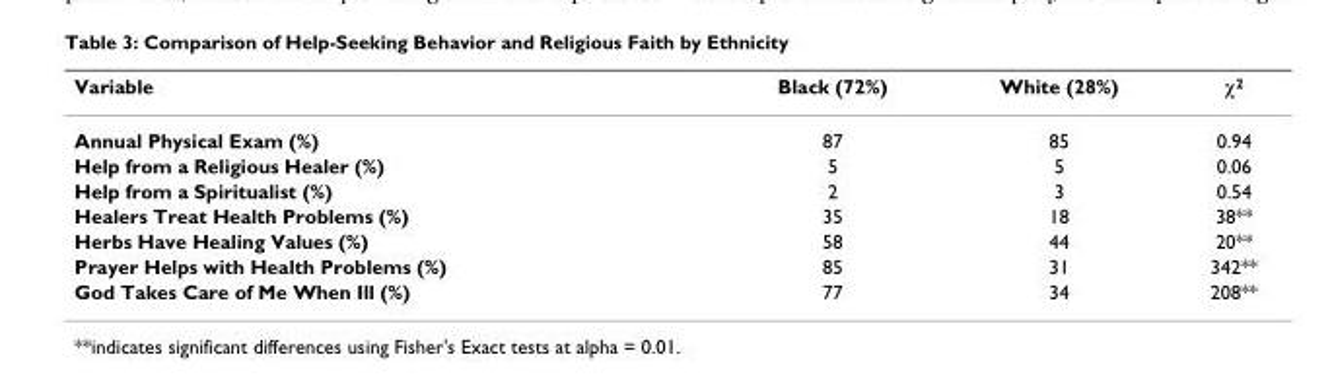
<table><thead><tr><td>Variable</td><td>Black (72%)</td><td>White (28%)</td><td>χ<sup>2</sup></td></tr></thead><tbody><tr><td>Annual Physical Exam (%)</td><td>87</td><td>85</td><td>0.94</td></tr><tr><td>Help from a Religious Healer (%)</td><td>5</td><td>5</td><td>0.06</td></tr><tr><td>Help from a Spiritualist (%)</td><td>2</td><td>3</td><td>0.54</td></tr><tr><td>Healers Treat Health Problems (%)</td><td>35</td><td>18</td><td>38**</td></tr><tr><td>Herbs Have Healing Values (%)</td><td>58</td><td>44</td><td>20**</td></tr><tr><td>Prayer Helps with Health Problems (%)</td><td>85</td><td>31</td><td>342**</td></tr><tr><td>God Takes Care of Me When Ill (%)</td><td>77</td><td>34</td><td>208**</td></tr></tbody></table>